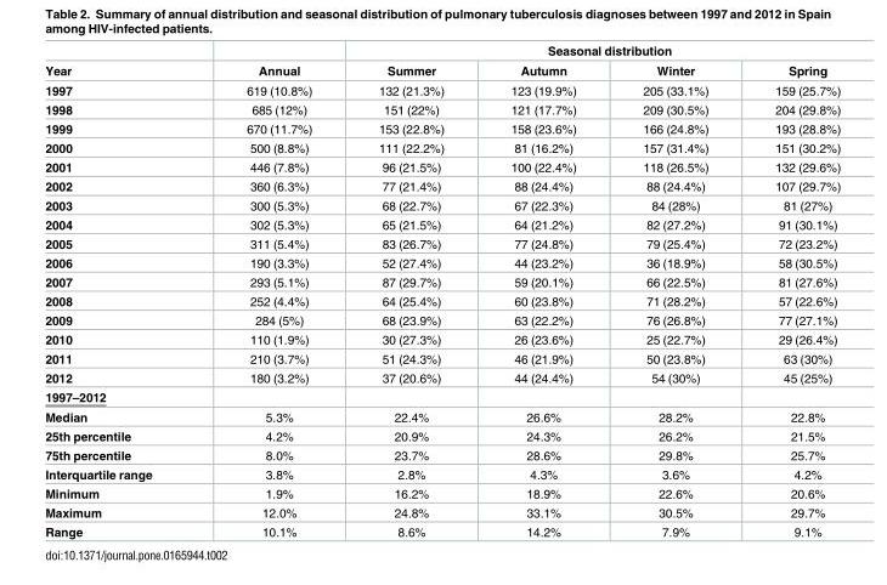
<table><thead><tr><td rowspan="2">Year</td><td rowspan="2">Annual</td><td colspan="4">Seasonal distribution</td></tr><tr><td>Summer</td><td>Autumn</td><td>Winter</td><td>Spring</td></tr></thead><tbody><tr><td>1997</td><td>619 (10.8%)</td><td>132 (21.3%)</td><td>123 (19.9%)</td><td>205 (33.1%)</td><td>159 (25.7%)</td></tr><tr><td>1998</td><td>685 (12%)</td><td>151 (22%)</td><td>121 (17.7%)</td><td>209 (30.5%)</td><td>204 (29.8%)</td></tr><tr><td>1999</td><td>670 (11.7%)</td><td>153 (22.8%)</td><td>158 (23.6%)</td><td>166 (24.8%)</td><td>193 (28.8%)</td></tr><tr><td>2000</td><td>500 (8.8%)</td><td>111 (22.2%)</td><td>81 (16.2%)</td><td>157 (31.4%)</td><td>151 (30.2%)</td></tr><tr><td>2001</td><td>446 (7.8%)</td><td>96 (21.5%)</td><td>100 (22.4%)</td><td>118 (26.5%)</td><td>132 (29.6%)</td></tr><tr><td>2002</td><td>360 (6.3%)</td><td>77 (21.4%)</td><td>88 (24.4%)</td><td>88 (24.4%)</td><td>107 (29.7%)</td></tr><tr><td>2003</td><td>300 (5.3%)</td><td>68 (22.7%)</td><td>67 (22.3%)</td><td>84 (28%)</td><td>81 (27%)</td></tr><tr><td>2004</td><td>302 (5.3%)</td><td>65 (21.5%)</td><td>64 (21.2%)</td><td>82 (27.2%)</td><td>91 (30.1%)</td></tr><tr><td>2005</td><td>311 (5.4%)</td><td>83 (26.7%)</td><td>77 (24.8%)</td><td>79 (25.4%)</td><td>72 (23.2%)</td></tr><tr><td>2006</td><td>190 (3.3%)</td><td>52 (27.4%)</td><td>44 (23.2%)</td><td>36 (18.9%)</td><td>58 (30.5%)</td></tr><tr><td>2007</td><td>293 (5.1%)</td><td>87 (29.7%)</td><td>59 (20.1%)</td><td>66 (22.5%)</td><td>81 (27.6%)</td></tr><tr><td>2008</td><td>252 (4.4%)</td><td>64 (25.4%)</td><td>60 (23.8%)</td><td>71 (28.2%)</td><td>57 (22.6%)</td></tr><tr><td>2009</td><td>284 (5%)</td><td>68 (23.9%)</td><td>63 (22.2%)</td><td>76 (26.8%)</td><td>77 (27.1%)</td></tr><tr><td>2010</td><td>110 (1.9%)</td><td>30 (27.3%)</td><td>26 (23.6%)</td><td>25 (22.7%)</td><td>29 (26.4%)</td></tr><tr><td>2011</td><td>210 (3.7%)</td><td>51 (24.3%)</td><td>46 (21.9%)</td><td>50 (23.8%)</td><td>63 (30%)</td></tr><tr><td>2012</td><td>180 (3.2%)</td><td>37 (20.6%)</td><td>44 (24.4%)</td><td>54 (30%)</td><td>45 (25%)</td></tr><tr><td colspan="6">1997–2012</td></tr><tr><td>Median</td><td>5.3%</td><td>22.4%</td><td>26.6%</td><td>28.2%</td><td>22.8%</td></tr><tr><td>25th percentile</td><td>4.2%</td><td>20.9%</td><td>24.3%</td><td>26.2%</td><td>21.5%</td></tr><tr><td>75th percentile</td><td>8.0%</td><td>23.7%</td><td>28.6%</td><td>29.8%</td><td>25.7%</td></tr><tr><td>Interquartile range</td><td>3.8%</td><td>2.8%</td><td>4.3%</td><td>3.6%</td><td>4.2%</td></tr><tr><td>Minimum</td><td>1.9%</td><td>16.2%</td><td>18.9%</td><td>22.6%</td><td>20.6%</td></tr><tr><td>Maximum</td><td>12.0%</td><td>24.8%</td><td>33.1%</td><td>30.5%</td><td>29.7%</td></tr><tr><td>Range</td><td>10.1%</td><td>8.6%</td><td>14.2%</td><td>7.9%</td><td>9.1%</td></tr></tbody></table>